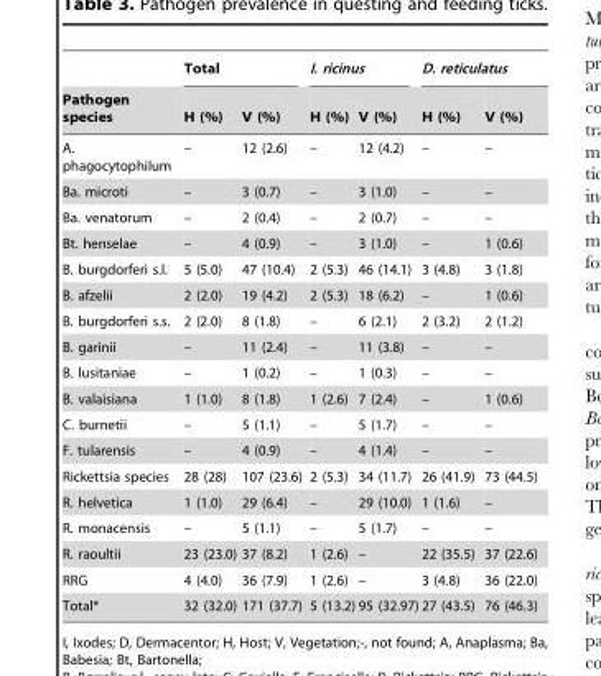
<table><thead><tr><td rowspan="2">Pathogen species</td><td colspan="2">Total</td><td colspan="2">I. ricinus</td><td colspan="2">D. reticulatus</td></tr><tr><td>H (%)</td><td>V (%)</td><td>H (%)</td><td>V (%)</td><td>H (%)</td><td>V (%)</td></tr></thead><tbody><tr><td>A. phagocytophilum</td><td>–</td><td>12 (2.6)</td><td>–</td><td>12 (4.2)</td><td>–</td><td>–</td></tr><tr><td>Ba. microti</td><td>–</td><td>3 (0.7)</td><td>–</td><td>3 (1.0)</td><td>–</td><td>–</td></tr><tr><td>Ba. venatorum</td><td>–</td><td>2 (0.4)</td><td>–</td><td>2 (0.7)</td><td>–</td><td>–</td></tr><tr><td>Bt. henselae</td><td>–</td><td>4 (0.9)</td><td>–</td><td>3 (1.0)</td><td>–</td><td>1 (0.6)</td></tr><tr><td>B. burgdorferi s.l.</td><td>5 (5.0)</td><td>47 (10.4)</td><td>2 (5.3)</td><td>46 (14.1)</td><td>3 (4.8)</td><td>3 (1.8)</td></tr><tr><td>B. afzelii</td><td>2 (2.0)</td><td>19 (4.2)</td><td>2 (5.3)</td><td>18 (6.2)</td><td>–</td><td>1 (0.6)</td></tr><tr><td>B. burgdorferi s.s.</td><td>2 (2.0)</td><td>8 (1.8)</td><td>–</td><td>6 (2.1)</td><td>2 (3.2)</td><td>2 (1.2)</td></tr><tr><td>B. garinii</td><td>–</td><td>11 (2.4)</td><td>–</td><td>11 (3.8)</td><td>–</td><td>–</td></tr><tr><td>B. lusitaniae</td><td>–</td><td>1 (0.2)</td><td>–</td><td>1 (0.3)</td><td>–</td><td>–</td></tr><tr><td>B. valaisiana</td><td>1 (1.0)</td><td>8 (1.8)</td><td>1 (2.6)</td><td>7 (2.4)</td><td>–</td><td>1 (0.6)</td></tr><tr><td>C. burnetii</td><td>–</td><td>5 (1.1)</td><td>–</td><td>5 (1.7)</td><td>–</td><td>–</td></tr><tr><td>F. tularensis</td><td>–</td><td>4 (0.9)</td><td>–</td><td>4 (1.4)</td><td>–</td><td>–</td></tr><tr><td>Rickettsia species</td><td>28 (28)</td><td>107 (23.6)</td><td>2 (5.3)</td><td>34 (11.7)</td><td>26 (41.9)</td><td>73 (44.5)</td></tr><tr><td>R. helvetica</td><td>1 (1.0)</td><td>29 (6.4)</td><td>–</td><td>29 (10.0)</td><td>1 (1.6)</td><td>–</td></tr><tr><td>R. monacensis</td><td>–</td><td>5 (1.1)</td><td>–</td><td>5 (1.7)</td><td>–</td><td>–</td></tr><tr><td>R. raoultii</td><td>23 (23.0)</td><td>37 (8.2)</td><td>1 (2.6)</td><td>–</td><td>22 (35.5)</td><td>37 (22.6)</td></tr><tr><td>RRG</td><td>4 (4.0)</td><td>36 (7.9)</td><td>1 (2.6)</td><td>–</td><td>3 (4.8)</td><td>36 (22.0)</td></tr><tr><td>Total*</td><td>32 (32.0)</td><td>171 (37.7)</td><td>5 (13.2)</td><td>95 (32.97)</td><td>27 (43.5)</td><td>76 (46.3)</td></tr></tbody></table>